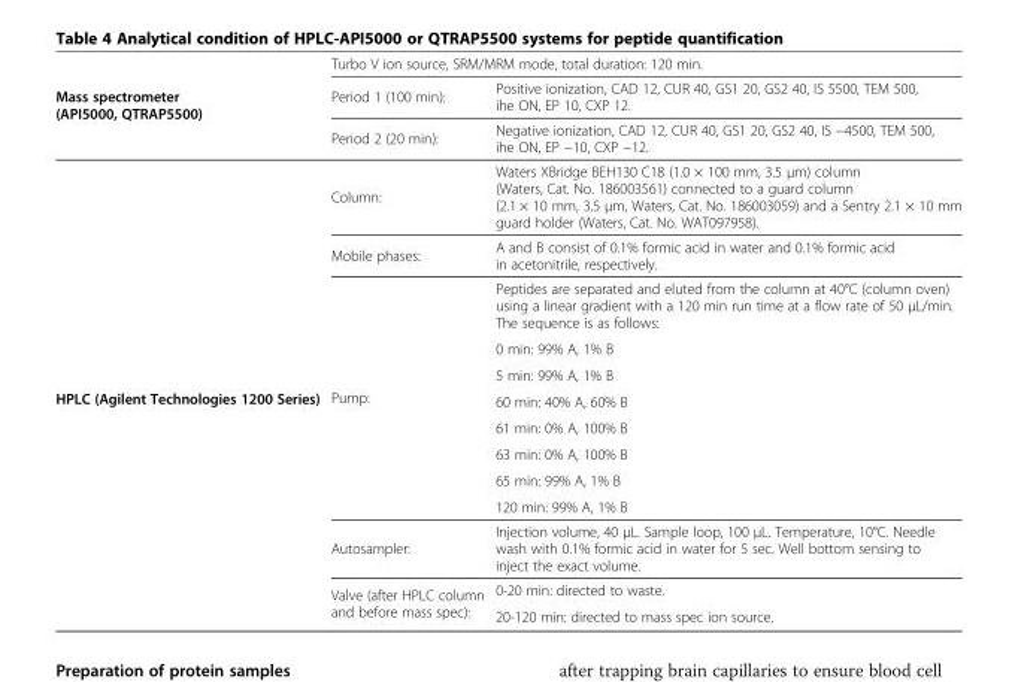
<table><tbody><tr><td rowspan="3">Mass spectrometer (API5000, QTRAP5500)</td><td colspan="2">Turbo V ion source, SRM/MRM mode, total duration: 120 min.</td></tr><tr><td>Period 1 (100 min):</td><td>Positive ionization, CAD 12, CUR 40, GS1 20, GS2 40, IS 5500, TEM 500, ihe ON, EP 10, CXP 12.</td></tr><tr><td>Period 2 (20 min):</td><td>Negative ionization, CAD 12, CUR 40, GS1 20, GS2 40, IS −4500, TEM 500, ihe ON, EP −10, CXP −12.</td></tr><tr><td rowspan="13">HPLC (Agilent Technologies 1200 Series)</td><td>Column:</td><td>Waters XBridge BEH130 C18 (1.0 × 100 mm, 3.5 μm) column (Waters, Cat. No. 186003561) connected to a guard column (2.1 × 10 mm, 3.5 μm, Waters, Cat. No. 186003059) and a Sentry 2.1 × 10 mm guard holder (Waters, Cat. No. WAT097958).</td></tr><tr><td>Mobile phases:</td><td>A and B consist of 0.1% formic acid in water and 0.1% formic acid in acetonitrile, respectively.</td></tr><tr><td rowspan="8">Pump:</td><td>Peptides are separated and eluted from the column at 40°C (column oven) using a linear gradient with a 120 min run time at a flow rate of 50 μL/min. The sequence is as follows:</td></tr><tr><td>0 min: 99% A, 1% B</td></tr><tr><td>5 min: 99% A, 1% B</td></tr><tr><td>60 min: 40% A, 60% B</td></tr><tr><td>61 min: 0% A, 100% B</td></tr><tr><td>63 min: 0% A, 100% B</td></tr><tr><td>65 min: 99% A, 1% B</td></tr><tr><td>120 min: 99% A, 1% B</td></tr><tr><td>Autosampler:</td><td>Injection volume, 40 μL. Sample loop, 100 μL. Temperature, 10°C. Needle wash with 0.1% formic acid in water for 5 sec. Well bottom sensing to inject the exact volume.</td></tr><tr><td rowspan="2">Valve (after HPLC column and before mass spec):</td><td>0-20 min: directed to waste.</td></tr><tr><td>20-120 min: directed to mass spec ion source.</td></tr></tbody></table>